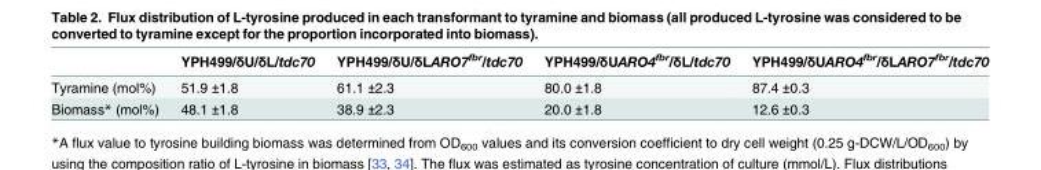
<table><thead><tr><td></td><td>YPH499/δU/δL/tdc70</td><td>YPH499/δU/δLARO7<sup>fbr</sup>/tdc70</td><td>YPH499/δUARO4<sup>fbr</sup>/δL/tdc70</td><td>YPH499/δUARO4<sup>fbr</sup>/δLARO7<sup>fbr</sup>/tdc70</td></tr></thead><tbody><tr><td>Tyramine (mol%)</td><td>51.9 ±1.8</td><td>61.1 ±2.3</td><td>80.0 ±1.8</td><td>87.4 ±0.3</td></tr><tr><td>Biomass* (mol%)</td><td>48.1 ±1.8</td><td>38.9 ±2.3</td><td>20.0 ±1.8</td><td>12.6 ±0.3</td></tr></tbody></table>